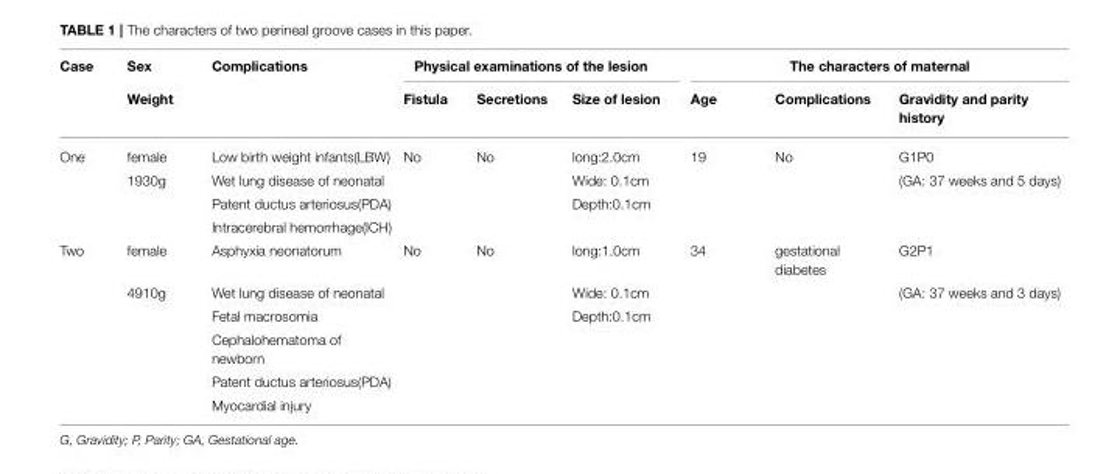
<table><thead><tr><td rowspan="2">Case</td><td rowspan="2">Sex Weight</td><td rowspan="2">Complications</td><td colspan="3">Physical examinations of the lesion</td><td colspan="3">The characters of maternal</td></tr><tr><td>Fistula</td><td>Secretions</td><td>Size of lesion</td><td>Age</td><td>Complications</td><td>Gravidity and parity history</td></tr></thead><tbody><tr><td rowspan="4">One</td><td>female</td><td>Low birth weight infants(LBW)</td><td>No</td><td>No</td><td>long:2.0cm</td><td>19</td><td>No</td><td>G1P0</td></tr><tr><td>1930g</td><td>Wet lung disease of neonatal</td><td></td><td></td><td>Wide: 0.1cm</td><td></td><td></td><td>(GA: 37 weeks and 5 days)</td></tr><tr><td></td><td>Patent ductus arteriosus(PDA)</td><td></td><td></td><td>Depth:0.1cm</td><td></td><td></td><td></td></tr><tr><td></td><td>Intracerebral hemorrhage(ICH)</td><td></td><td></td><td></td><td></td><td></td><td></td></tr><tr><td rowspan="6">Two</td><td>female</td><td>Asphyxia neonatorum</td><td>No</td><td>No</td><td>long:1.0cm</td><td>34</td><td>gestational diabetes</td><td>G2P1</td></tr><tr><td>4910g</td><td>Wet lung disease of neonatal</td><td></td><td></td><td>Wide: 0.1cm</td><td></td><td></td><td>(GA: 37 weeks and 3 days)</td></tr><tr><td></td><td>Fetal macrosomia</td><td></td><td></td><td>Depth:0.1cm</td><td></td><td></td><td></td></tr><tr><td></td><td>Cephalohematoma of newborn</td><td></td><td></td><td></td><td></td><td></td><td></td></tr><tr><td></td><td>Patent ductus arteriosus(PDA)</td><td></td><td></td><td></td><td></td><td></td><td></td></tr><tr><td></td><td>Myocardial injury</td><td></td><td></td><td></td><td></td><td></td><td></td></tr></tbody></table>